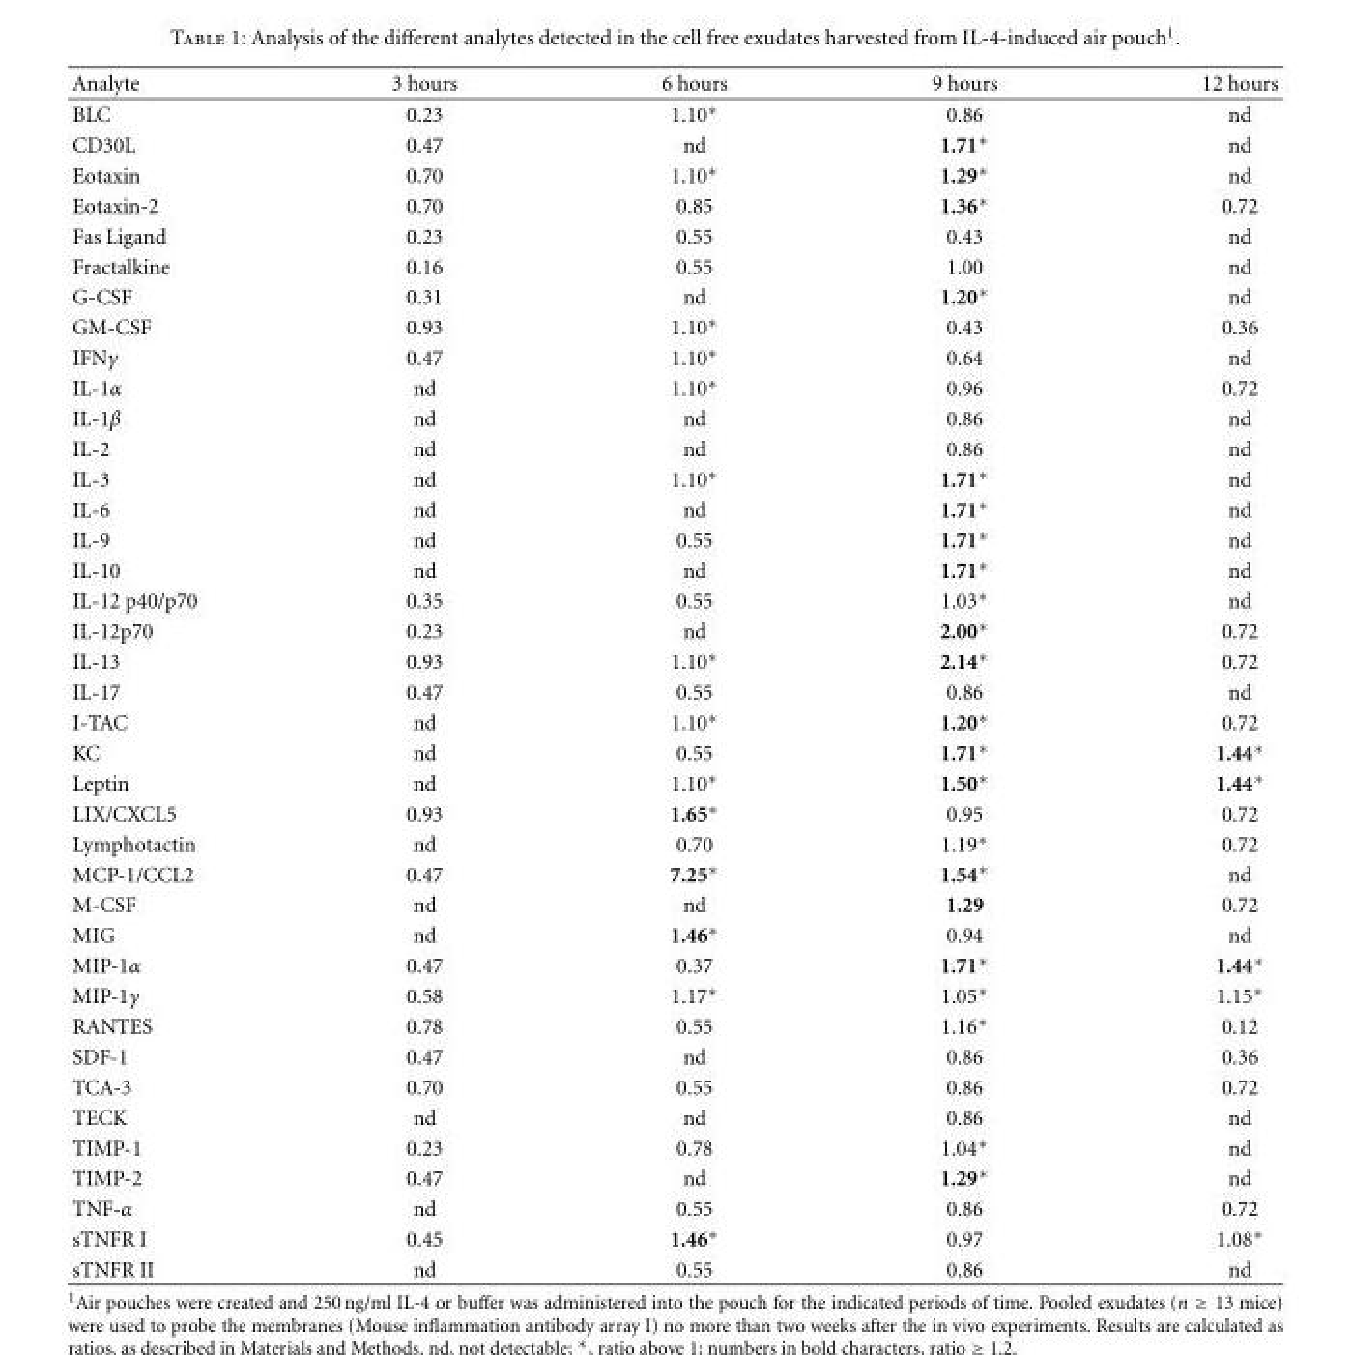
<table><thead><tr><td>Analyte</td><td>3 hours</td><td>6 hours</td><td>9 hours</td><td>12 hours</td></tr></thead><tbody><tr><td>BLC</td><td>0.23</td><td>1.10∗</td><td>0.86</td><td>nd</td></tr><tr><td>CD30L</td><td>0.47</td><td>nd</td><td>1.71∗</td><td>nd</td></tr><tr><td>Eotaxin</td><td>0.70</td><td>1.10∗</td><td>1.29∗</td><td>nd</td></tr><tr><td>Eotaxin-2</td><td>0.70</td><td>0.85</td><td>1.36∗</td><td>0.72</td></tr><tr><td>Fas Ligand</td><td>0.23</td><td>0.55</td><td>0.43</td><td>nd</td></tr><tr><td>Fractalkine</td><td>0.16</td><td>0.55</td><td>1.00</td><td>nd</td></tr><tr><td>G-CSF</td><td>0.31</td><td>nd</td><td>1.20∗</td><td>nd</td></tr><tr><td>GM-CSF</td><td>0.93</td><td>1.10∗</td><td>0.43</td><td>0.36</td></tr><tr><td>IFNγ</td><td>0.47</td><td>1.10∗</td><td>0.64</td><td>nd</td></tr><tr><td>IL-1α</td><td>nd</td><td>1.10∗</td><td>0.96</td><td>0.72</td></tr><tr><td>IL-1β</td><td>nd</td><td>nd</td><td>0.86</td><td>nd</td></tr><tr><td>IL-2</td><td>nd</td><td>nd</td><td>0.86</td><td>nd</td></tr><tr><td>IL-3</td><td>nd</td><td>1.10∗</td><td>1.71∗</td><td>nd</td></tr><tr><td>IL-6</td><td>nd</td><td>nd</td><td>1.71∗</td><td>nd</td></tr><tr><td>IL-9</td><td>nd</td><td>0.55</td><td>1.71∗</td><td>nd</td></tr><tr><td>IL-10</td><td>nd</td><td>nd</td><td>1.71∗</td><td>nd</td></tr><tr><td>IL-12 p40/p70</td><td>0.35</td><td>0.55</td><td>1.03∗</td><td>nd</td></tr><tr><td>IL-12p70</td><td>0.23</td><td>nd</td><td>2.00∗</td><td>0.72</td></tr><tr><td>IL-13</td><td>0.93</td><td>1.10∗</td><td>2.14∗</td><td>0.72</td></tr><tr><td>IL-17</td><td>0.47</td><td>0.55</td><td>0.86</td><td>nd</td></tr><tr><td>I-TAC</td><td>nd</td><td>1.10∗</td><td>1.20∗</td><td>0.72</td></tr><tr><td>KC</td><td>nd</td><td>0.55</td><td>1.71∗</td><td>1.44∗</td></tr><tr><td>Leptin</td><td>nd</td><td>1.10∗</td><td>1.50∗</td><td>1.44∗</td></tr><tr><td>LIX/CXCL5</td><td>0.93</td><td>1.65∗</td><td>0.95</td><td>0.72</td></tr><tr><td>Lymphotactin</td><td>nd</td><td>0.70</td><td>1.19∗</td><td>0.72</td></tr><tr><td>MCP-1/CCL2</td><td>0.47</td><td>7.25∗</td><td>1.54∗</td><td>nd</td></tr><tr><td>M-CSF</td><td>nd</td><td>nd</td><td>1.29</td><td>0.72</td></tr><tr><td>MIG</td><td>nd</td><td>1.46∗</td><td>0.94</td><td>nd</td></tr><tr><td>MIP-1α</td><td>0.47</td><td>0.37</td><td>1.71∗</td><td>1.44∗</td></tr><tr><td>MIP-1γ</td><td>0.58</td><td>1.17∗</td><td>1.05∗</td><td>1.15∗</td></tr><tr><td>RANTES</td><td>0.78</td><td>0.55</td><td>1.16∗</td><td>0.12</td></tr><tr><td>SDF-1</td><td>0.47</td><td>nd</td><td>0.86</td><td>0.36</td></tr><tr><td>TCA-3</td><td>0.70</td><td>0.55</td><td>0.86</td><td>0.72</td></tr><tr><td>TECK</td><td>nd</td><td>nd</td><td>0.86</td><td>nd</td></tr><tr><td>TIMP-1</td><td>0.23</td><td>0.78</td><td>1.04∗</td><td>nd</td></tr><tr><td>TIMP-2</td><td>0.47</td><td>nd</td><td>1.29∗</td><td>nd</td></tr><tr><td>TNF-α</td><td>nd</td><td>0.55</td><td>0.86</td><td>0.72</td></tr><tr><td>sTNFR I</td><td>0.45</td><td>1.46∗</td><td>0.97</td><td>1.08∗</td></tr><tr><td>sTNFR II</td><td>nd</td><td>0.55</td><td>0.86</td><td>nd</td></tr></tbody></table>